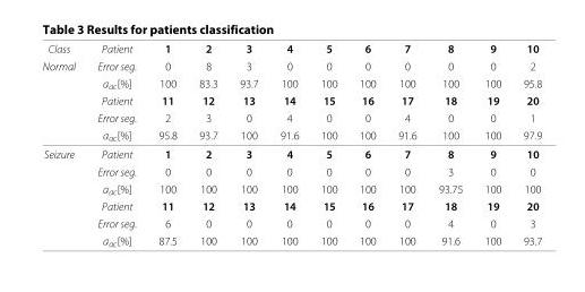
<table><tbody><tr><td>Class</td><td>Patient</td><td>1</td><td>2</td><td>3</td><td>4</td><td>5</td><td>6</td><td>7</td><td>8</td><td>9</td><td>10</td></tr><tr><td rowspan="5">Normal</td><td>Error seg.</td><td>0</td><td>8</td><td>3</td><td>0</td><td>0</td><td>0</td><td>0</td><td>0</td><td>0</td><td>2</td></tr><tr><td>a<sub>ac</sub>[%]</td><td>100</td><td>83.3</td><td>93.7</td><td>100</td><td>100</td><td>100</td><td>100</td><td>100</td><td>100</td><td>95.8</td></tr><tr><td>Patient</td><td>11</td><td>12</td><td>13</td><td>14</td><td>15</td><td>16</td><td>17</td><td>18</td><td>19</td><td>20</td></tr><tr><td>Error seg.</td><td>2</td><td>3</td><td>0</td><td>4</td><td>0</td><td>0</td><td>4</td><td>0</td><td>0</td><td>1</td></tr><tr><td>a<sub>ac</sub>[%]</td><td>95.8</td><td>93.7</td><td>100</td><td>91.6</td><td>100</td><td>100</td><td>91.6</td><td>100</td><td>100</td><td>97.9</td></tr><tr><td rowspan="6">Seizure</td><td>Patient</td><td>1</td><td>2</td><td>3</td><td>4</td><td>5</td><td>6</td><td>7</td><td>8</td><td>9</td><td>10</td></tr><tr><td>Error seg.</td><td>0</td><td>0</td><td>0</td><td>0</td><td>0</td><td>0</td><td>0</td><td>3</td><td>0</td><td>0</td></tr><tr><td>a<sub>ac</sub>[%]</td><td>100</td><td>100</td><td>100</td><td>100</td><td>100</td><td>100</td><td>100</td><td>93.75</td><td>100</td><td>100</td></tr><tr><td>Patient</td><td>11</td><td>12</td><td>13</td><td>14</td><td>15</td><td>16</td><td>17</td><td>18</td><td>19</td><td>20</td></tr><tr><td>Error seg.</td><td>6</td><td>0</td><td>0</td><td>0</td><td>0</td><td>0</td><td>0</td><td>4</td><td>0</td><td>3</td></tr><tr><td>a<sub>ac</sub>[%]</td><td>87.5</td><td>100</td><td>100</td><td>100</td><td>100</td><td>100</td><td>100</td><td>91.6</td><td>100</td><td>93.7</td></tr></tbody></table>